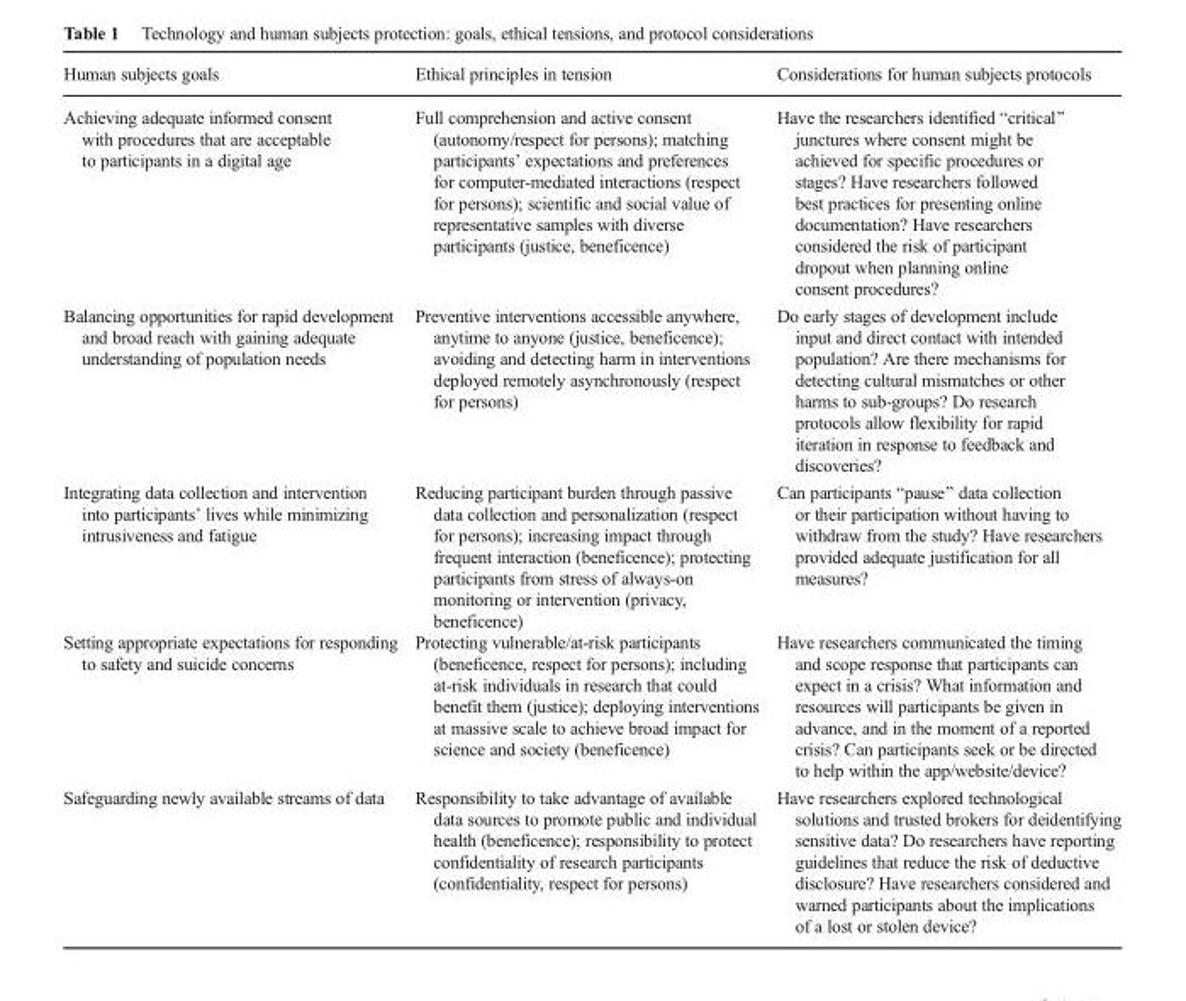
<table><thead><tr><td>Human subjects goals</td><td>Ethical principles in tension</td><td>Considerations for human subjects protocols</td></tr></thead><tbody><tr><td>Achieving adequate informed consent with procedures that are acceptable to participants in a digital age</td><td>Full comprehension and active consent (autonomy/respect for persons); matching participants’ expectations and preferences for computer-mediated interactions (respect for persons); scientific and social value of representative samples with diverse participants (justice, beneficence)</td><td>Have the researchers identified “critical” junctures where consent might be achieved for specific procedures or stages? Have researchers followed best practices for presenting online documentation? Have researchers considered the risk of participant dropout when planning online consent procedures?</td></tr><tr><td>Balancing opportunities for rapid development and broad reach with gaining adequate understanding of population needs</td><td>Preventive interventions accessible anywhere, anytime to anyone (justice, beneficence); avoiding and detecting harm in interventions deployed remotely asynchronously (respect for persons)</td><td>Do early stages of development include input and direct contact with intended population? Are there mechanisms for detecting cultural mismatches or other harms to sub-groups? Do research protocols allow flexibility for rapid iteration in response to feedback and discoveries?</td></tr><tr><td>Integrating data collection and intervention into participants’ lives while minimizing intrusiveness and fatigue</td><td>Reducing participant burden through passive data collection and personalization (respect for persons); increasing impact through frequent interaction (beneficence); protecting participants from stress of always-on monitoring or intervention (privacy, beneficence)</td><td>Can participants “pause” data collection or their participation without having to withdraw from the study? Have researchers provided adequate justification for all measures?</td></tr><tr><td>Setting appropriate expectations for responding to safety and suicide concerns</td><td>Protecting vulnerable/at-risk participants (beneficence, respect for persons); including at-risk individuals in research that could benefit them (justice); deploying interventions at massive scale to achieve broad impact for science and society (beneficence)</td><td>Have researchers communicated the timing and scope response that participants can expect in a crisis? What information and resources will participants be given in advance, and in the moment of a reported crisis? Can participants seek or be directed to help within the app/website/device?</td></tr><tr><td>Safeguarding newly available streams of data</td><td>Responsibility to take advantage of available data sources to promote public and individual health (beneficence); responsibility to protect confidentiality of research participants (confidentiality, respect for persons)</td><td>Have researchers explored technological solutions and trusted brokers for deidentifying sensitive data? Do researchers have reporting guidelines that reduce the risk of deductive disclosure? Have researchers considered and warned participants about the implications of a lost or stolen device?</td></tr></tbody></table>